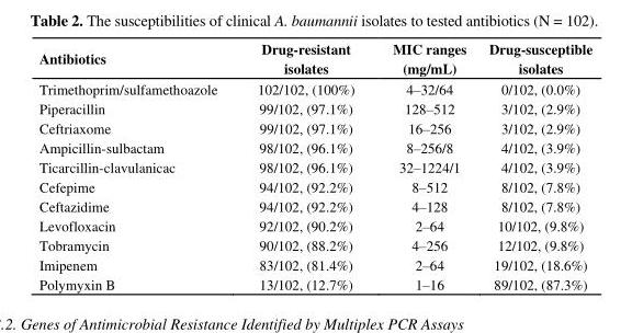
<table><thead><tr><td>Antibiotics</td><td>Drug-resistant isolates</td><td>MIC ranges (mg/mL)</td><td>Drug-susceptible isolates</td></tr></thead><tbody><tr><td>Trimethoprim/sulfamethoazole</td><td>102/102, (100%)</td><td>4–32/64</td><td>0/102, (0.0%)</td></tr><tr><td>Piperacillin</td><td>99/102, (97.1%)</td><td>128–512</td><td>3/102, (2.9%)</td></tr><tr><td>Ceftriaxome</td><td>99/102, (97.1%)</td><td>16–256</td><td>3/102, (2.9%)</td></tr><tr><td>Ampicillin-sulbactam</td><td>98/102, (96.1%)</td><td>8–256/8</td><td>4/102, (3.9%)</td></tr><tr><td>Ticarcillin-clavulanicac</td><td>98/102, (96.1%)</td><td>32–1224/1</td><td>4/102, (3.9%)</td></tr><tr><td>Cefepime</td><td>94/102, (92.2%)</td><td>8–512</td><td>8/102, (7.8%)</td></tr><tr><td>Ceftazidime</td><td>94/102, (92.2%)</td><td>4–128</td><td>8/102, (7.8%)</td></tr><tr><td>Levofloxacin</td><td>92/102, (90.2%)</td><td>2–64</td><td>10/102, (9.8%)</td></tr><tr><td>Tobramycin</td><td>90/102, (88.2%)</td><td>4–256</td><td>12/102, (9.8%)</td></tr><tr><td>Imipenem</td><td>83/102, (81.4%)</td><td>2–64</td><td>19/102, (18.6%)</td></tr><tr><td>Polymyxin B</td><td>13/102, (12.7%)</td><td>1–16</td><td>89/102, (87.3%)</td></tr></tbody></table>